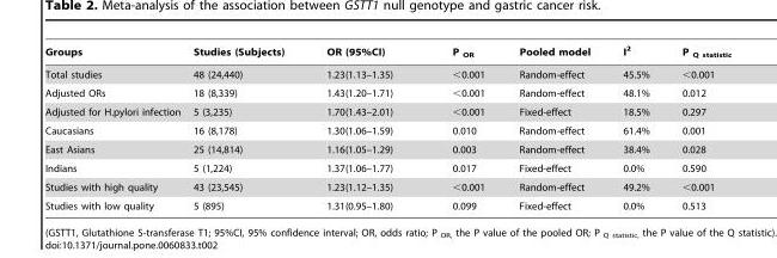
<table><thead><tr><td>Groups</td><td>Studies (Subjects)</td><td>OR (95%CI)</td><td>P <sub>OR</sub></td><td>Pooled model</td><td>I<sup>2</sup></td><td>P <sub>Q statistic</sub></td></tr></thead><tbody><tr><td>Total studies</td><td>48 (24,440)</td><td>1.23(1.13–1.35)</td><td>&lt;0.001</td><td>Random-effect</td><td>45.5%</td><td>&lt;0.001</td></tr><tr><td>Adjusted ORs</td><td>18 (8,339)</td><td>1.43(1.20–1.71)</td><td>&lt;0.001</td><td>Random-effect</td><td>48.1%</td><td>0.012</td></tr><tr><td>Adjusted for H.pylori infection</td><td>5 (3,235)</td><td>1.70(1.43–2.01)</td><td>&lt;0.001</td><td>Fixed-effect</td><td>18.5%</td><td>0.297</td></tr><tr><td>Caucasians</td><td>16 (8,178)</td><td>1.30(1.06–1.59)</td><td>0.010</td><td>Random-effect</td><td>61.4%</td><td>0.001</td></tr><tr><td>East Asians</td><td>25 (14,814)</td><td>1.16(1.05–1.29)</td><td>0.003</td><td>Random-effect</td><td>38.4%</td><td>0.028</td></tr><tr><td>Indians</td><td>5 (1,224)</td><td>1.37(1.06–1.77)</td><td>0.017</td><td>Fixed-effect</td><td>0.0%</td><td>0.590</td></tr><tr><td>Studies with high quality</td><td>43 (23,545)</td><td>1.23(1.12–1.35)</td><td>&lt;0.001</td><td>Random-effect</td><td>49.2%</td><td>&lt;0.001</td></tr><tr><td>Studies with low quality</td><td>5 (895)</td><td>1.31(0.95–1.80)</td><td>0.099</td><td>Fixed-effect</td><td>0.0%</td><td>0.513</td></tr></tbody></table>